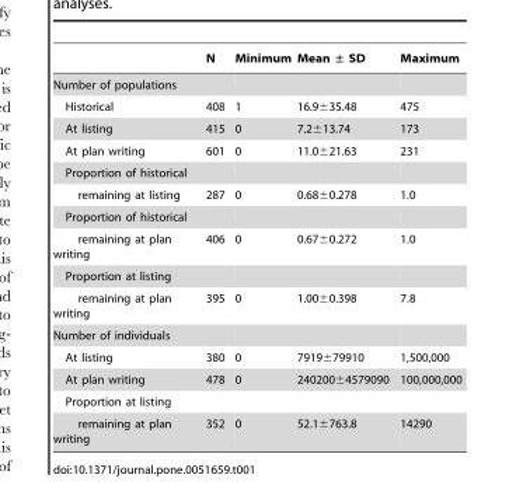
<table><thead><tr><td></td><td>N</td><td>Minimum</td><td>Mean ± SD</td><td>Maximum</td></tr></thead><tbody><tr><td colspan="5">Number of populations</td></tr><tr><td>Historical</td><td>408</td><td>1</td><td>16.9±35.48</td><td>475</td></tr><tr><td>At listing</td><td>415</td><td>0</td><td>7.2±13.74</td><td>173</td></tr><tr><td>At plan writing</td><td>601</td><td>0</td><td>11.0±21.63</td><td>231</td></tr><tr><td colspan="5">Proportion of historical</td></tr><tr><td>remaining at listing</td><td>287</td><td>0</td><td>0.68±0.278</td><td>1.0</td></tr><tr><td colspan="5">Proportion of historical</td></tr><tr><td>remaining at plan writing</td><td>406</td><td>0</td><td>0.67±0.272</td><td>1.0</td></tr><tr><td colspan="5">Proportion at listing</td></tr><tr><td>remaining at plan writing</td><td>395</td><td>0</td><td>1.00±0.398</td><td>7.8</td></tr><tr><td colspan="5">Number of individuals</td></tr><tr><td>At listing</td><td>380</td><td>0</td><td>7919±79910</td><td>1,500,000</td></tr><tr><td>At plan writing</td><td>478</td><td>0</td><td>240200±4579090</td><td>100,000,000</td></tr><tr><td colspan="5">Proportion at listing</td></tr><tr><td>remaining at plan writing</td><td>352</td><td>0</td><td>52.1±763.8</td><td>14290</td></tr></tbody></table>